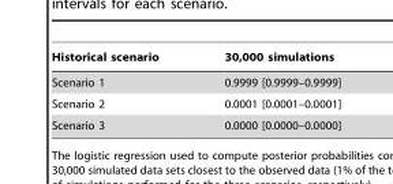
<table><thead><tr><td>Historical scenario</td><td>30,000 simulations</td></tr></thead><tbody><tr><td>Scenario 1</td><td>0.9999 [0.9999–0.9999]</td></tr><tr><td>Scenario 2</td><td>0.0001 [0.0001–0.0001]</td></tr><tr><td>Scenario 3</td><td>0.0000 [0.0000–0.0000]</td></tr></tbody></table>